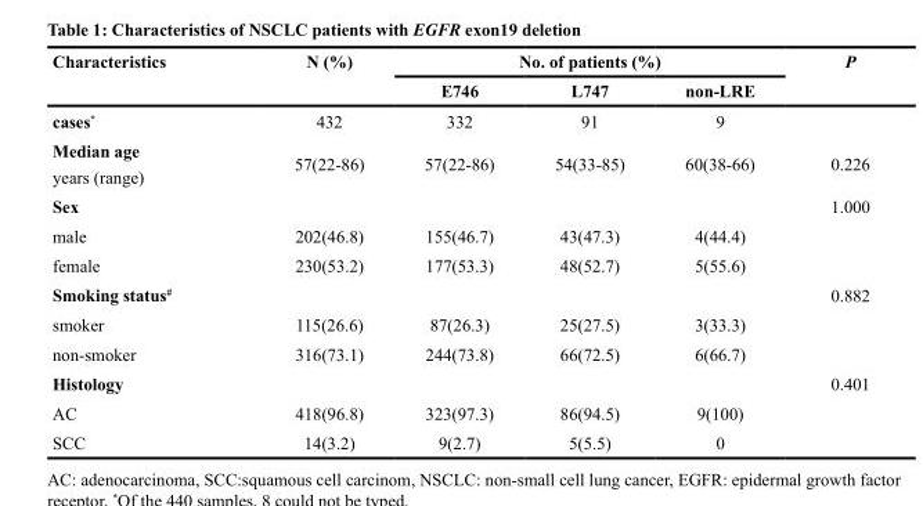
<table><thead><tr><td rowspan="2">Characteristics</td><td rowspan="2">N (%)</td><td colspan="3">No. of patients (%)</td><td rowspan="2">P</td></tr><tr><td>E746</td><td>L747</td><td>non-LRE</td></tr></thead><tbody><tr><td>cases*</td><td>432</td><td>332</td><td>91</td><td>9</td><td></td></tr><tr><td>Median age years (range)</td><td>57(22-86)</td><td>57(22-86)</td><td>54(33-85)</td><td>60(38-66)</td><td>0.226</td></tr><tr><td>Sex</td><td></td><td></td><td></td><td></td><td>1.000</td></tr><tr><td>male</td><td>202(46.8)</td><td>155(46.7)</td><td>43(47.3)</td><td>4(44.4)</td><td></td></tr><tr><td>female</td><td>230(53.2)</td><td>177(53.3)</td><td>48(52.7)</td><td>5(55.6)</td><td></td></tr><tr><td>Smoking status<sup>#</sup></td><td></td><td></td><td></td><td></td><td>0.882</td></tr><tr><td>smoker</td><td>115(26.6)</td><td>87(26.3)</td><td>25(27.5)</td><td>3(33.3)</td><td></td></tr><tr><td>non-smoker</td><td>316(73.1)</td><td>244(73.8)</td><td>66(72.5)</td><td>6(66.7)</td><td></td></tr><tr><td>Histology</td><td></td><td></td><td></td><td></td><td>0.401</td></tr><tr><td>AC</td><td>418(96.8)</td><td>323(97.3)</td><td>86(94.5)</td><td>9(100)</td><td></td></tr><tr><td>SCC</td><td>14(3.2)</td><td>9(2.7)</td><td>5(5.5)</td><td>0</td><td></td></tr></tbody></table>